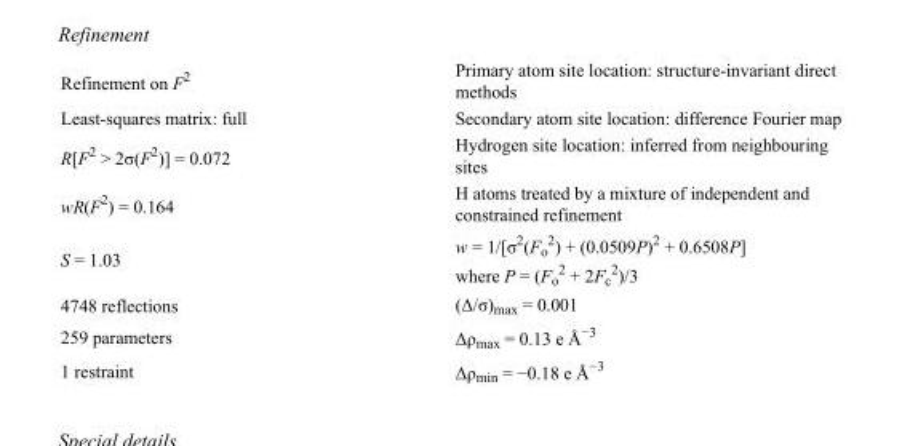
<table><tbody><tr><td>Refinement on F<sup>2</sup></td><td>Primary atom site location: structure-invariant direct methods</td></tr><tr><td>Least-squares matrix: full</td><td>Secondary atom site location: difference Fourier map</td></tr><tr><td>R[F<sup>2</sup> &gt; 2σ(F<sup>2</sup>)] = 0.072</td><td>Hydrogen site location: inferred from neighbouring sites</td></tr><tr><td>wR(F<sup>2</sup>) = 0.164</td><td>H atoms treated by a mixture of independent and constrained refinement</td></tr><tr><td>S = 1.03</td><td>w = 1/[σ<sup>2</sup>(F<sub>o</sub> <sup>2</sup>) + (0.0509P)<sup>2</sup> + 0.6508P] where P = (F<sub>o</sub> <sup>2</sup> + 2F<sub>c</sub> <sup>2</sup>)/3</td></tr><tr><td>4748 reflections</td><td>(Δ/σ)<sub>max</sub> = 0.001</td></tr><tr><td>259 parameters</td><td>Δρ<sub>max</sub> = 0.13 e Å<sup>−3</sup></td></tr><tr><td>1 restraint</td><td>Δρ<sub>min</sub> = −0.18 e Å<sup>−3</sup></td></tr></tbody></table>